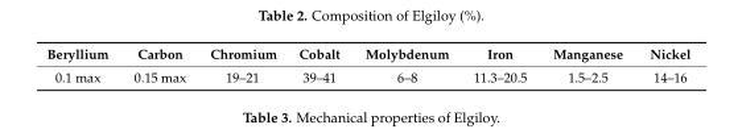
<table><thead><tr><td>Beryllium</td><td>Carbon</td><td>Chromium</td><td>Cobalt</td><td>Molybdenum</td><td>Iron</td><td>Manganese</td><td>Nickel</td></tr></thead><tbody><tr><td>0.1 max</td><td>0.15 max</td><td>19–21</td><td>39–41</td><td>6–8</td><td>11.3–20.5</td><td>1.5–2.5</td><td>14–16</td></tr></tbody></table>